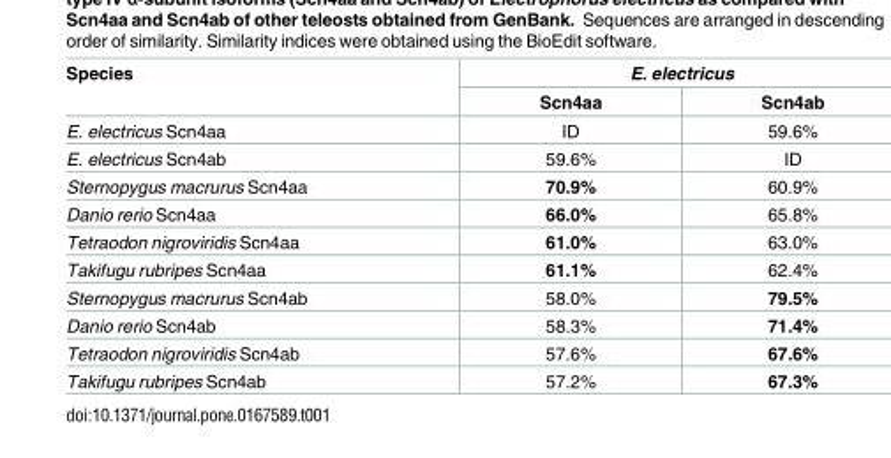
<table><thead><tr><td rowspan="2">Species</td><td colspan="2">E. electricus</td></tr><tr><td>Scn4aa</td><td>Scn4ab</td></tr></thead><tbody><tr><td>E. electricus Scn4aa</td><td>ID</td><td>59.6%</td></tr><tr><td>E. electricus Scn4ab</td><td>59.6%</td><td>ID</td></tr><tr><td>Sternopygus macrurus Scn4aa</td><td>70.9%</td><td>60.9%</td></tr><tr><td>Danio rerio Scn4aa</td><td>66.0%</td><td>65.8%</td></tr><tr><td>Tetraodon nigroviridis Scn4aa</td><td>61.0%</td><td>63.0%</td></tr><tr><td>Takifugu rubripes Scn4aa</td><td>61.1%</td><td>62.4%</td></tr><tr><td>Sternopygus macrurus Scn4ab</td><td>58.0%</td><td>79.5%</td></tr><tr><td>Danio rerio Scn4ab</td><td>58.3%</td><td>71.4%</td></tr><tr><td>Tetraodon nigroviridis Scn4ab</td><td>57.6%</td><td>67.6%</td></tr><tr><td>Takifugu rubripes Scn4ab</td><td>57.2%</td><td>67.3%</td></tr></tbody></table>